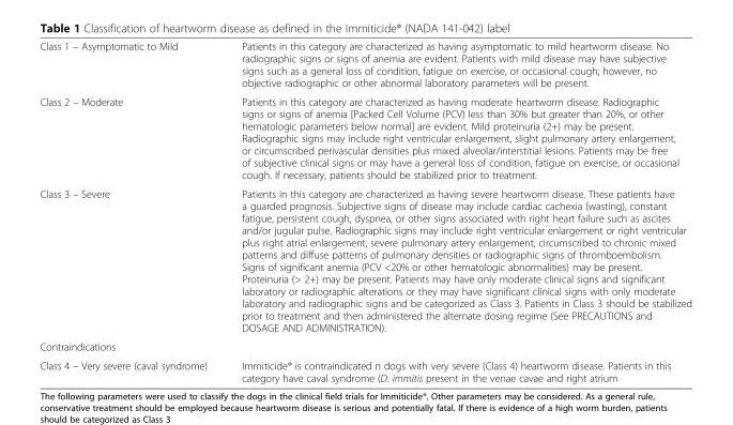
<table><tbody><tr><td>Class 1 – Asymptomatic to Mild</td><td>Patients in this category are characterized as having asymptomatic to mild heartworm disease. No radiographic signs or signs of anemia are evident. Patients with mild disease may have subjective signs such as a general loss of condition, fatigue on exercise, or occasional cough; however, no objective radiographic or other abnormal laboratory parameters will be present.</td></tr><tr><td>Class 2 – Moderate</td><td>Patients in this category are characterized as having moderate heartworm disease. Radiographic signs or signs of anemia [Packed Cell Volume (PCV) less than 30% but greater than 20%, or other hematologic parameters below normal] are evident. Mild proteinuria (2+) may be present. Radiographic signs may include right ventricular enlargement, slight pulmonary artery enlargement, or circumscribed perivascular densities plus mixed alveolar/interstitial lesions. Patients may be free of subjective clinical signs or may have a general loss of condition, fatigue on exercise, or occasional cough. If necessary, patients should be stabilized prior to treatment.</td></tr><tr><td>Class 3 – Severe</td><td>Patients in this category are characterized as having severe heartworm disease. These patients have a guarded prognosis. Subjective signs of disease may include cardiac cachexia (wasting), constant fatigue, persistent cough, dyspnea, or other signs associated with right heart failure such as ascites and/or jugular pulse. Radiographic signs may include right ventricular enlargement or right ventricular plus right atrial enlargement, severe pulmonary artery enlargement, circumscribed to chronic mixed patterns and diffuse patterns of pulmonary densities or radiographic signs of thromboembolism. Signs of significant anemia (PCV &lt;20% or other hematologic abnormalities) may be present. Proteinuria (&gt; 2+) may be present. Patients may have only moderate clinical signs and significant laboratory or radiographic alterations or they may have significant clinical signs with only moderate laboratory and radiographic signs and be categorized as Class 3. Patients in Class 3 should be stabilized prior to treatment and then administered the alternate dosing regime (See PRECAUTIONS and DOSAGE AND ADMINISTRATION).</td></tr><tr><td colspan="2">Contraindications</td></tr><tr><td>Class 4 – Very severe (caval syndrome)</td><td>Immiticide® is contraindicated n dogs with very severe (Class 4) heartworm disease. Patients in this category have caval syndrome (D. immitis present in the venae cavae and right atrium</td></tr></tbody></table>